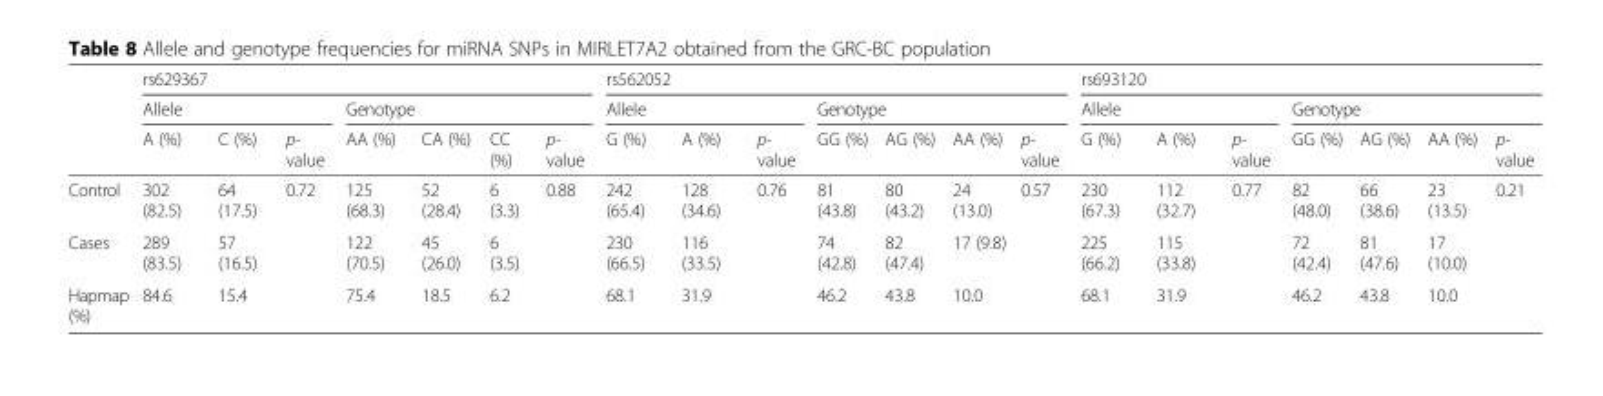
<table><thead><tr><td rowspan="3"></td><td colspan="7">rs629367</td><td colspan="7">rs562052</td><td colspan="7">rs693120</td></tr><tr><td colspan="3">Allele</td><td colspan="4">Genotype</td><td colspan="3">Allele</td><td colspan="4">Genotype</td><td colspan="3">Allele</td><td colspan="4">Genotype</td></tr><tr><td>A (%)</td><td>C (%)</td><td>p- value</td><td>AA (%)</td><td>CA (%)</td><td>CC (%)</td><td>p- value</td><td>G (%)</td><td>A (%)</td><td>p- value</td><td>GG (%)</td><td>AG (%)</td><td>AA (%)</td><td>p- value</td><td>G (%)</td><td>A (%)</td><td>p- value</td><td>GG (%)</td><td>AG (%)</td><td>AA (%)</td><td>p- value</td></tr></thead><tbody><tr><td>Control</td><td>302 (82.5)</td><td>64 (17.5)</td><td rowspan="2">0.72</td><td>125 (68.3)</td><td>52 (28.4)</td><td>6 (3.3)</td><td rowspan="2">0.88</td><td>242 (65.4)</td><td>128 (34.6)</td><td rowspan="2">0.76</td><td>81 (43.8)</td><td>80 (43.2)</td><td>24 (13.0)</td><td rowspan="2">0.57</td><td>230 (67.3)</td><td>112 (32.7)</td><td rowspan="2">0.77</td><td>82 (48.0)</td><td>66 (38.6)</td><td>23 (13.5)</td><td rowspan="2">0.21</td></tr><tr><td>Cases</td><td>289 (83.5)</td><td>57 (16.5)</td><td>122 (70.5)</td><td>45 (26.0)</td><td>6 (3.5)</td><td>230 (66.5)</td><td>116 (33.5)</td><td>74 (42.8)</td><td>82 (47.4)</td><td>17 (9.8)</td><td>225 (66.2)</td><td>115 (33.8)</td><td>72 (42.4)</td><td>81 (47.6)</td><td>17 (10.0)</td></tr><tr><td>Hapmap (%)</td><td>84.6</td><td>15.4</td><td></td><td>75.4</td><td>18.5</td><td>6.2</td><td></td><td>68.1</td><td>31.9</td><td></td><td>46.2</td><td>43.8</td><td>10.0</td><td></td><td>68.1</td><td>31.9</td><td></td><td>46.2</td><td>43.8</td><td>10.0</td><td></td></tr></tbody></table>